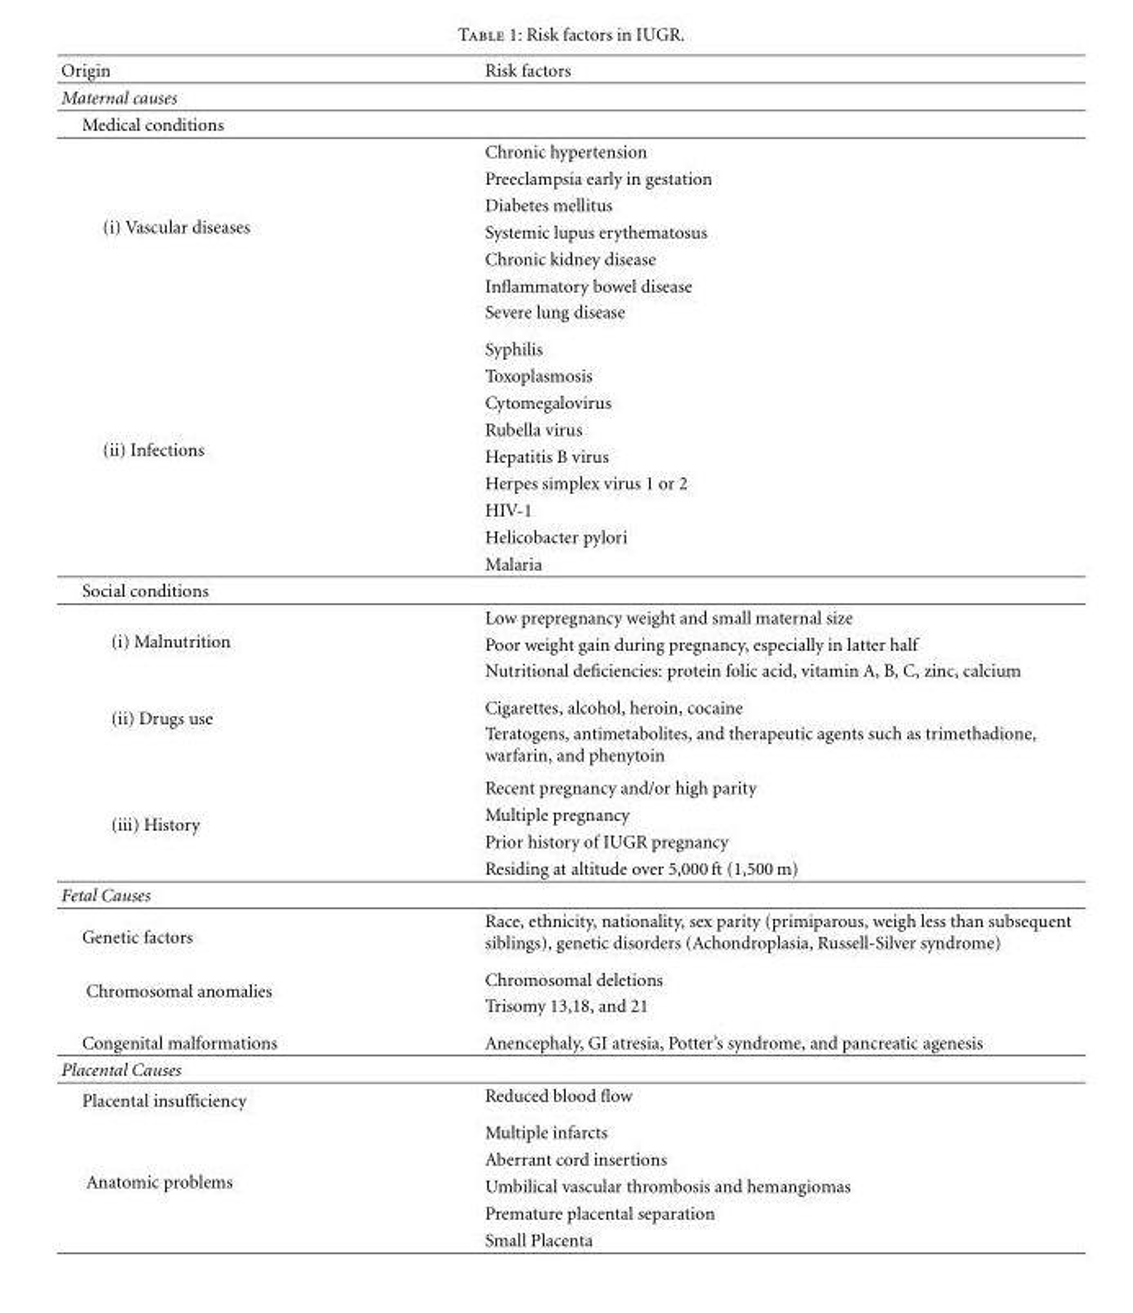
<table><thead><tr><td>Origin</td><td>Risk factors</td></tr></thead><tbody><tr><td colspan="2">Maternal causes</td></tr><tr><td colspan="2">Medical conditions</td></tr><tr><td rowspan="7">(i) Vascular diseases</td><td>Chronic hypertension</td></tr><tr><td>Preeclampsia early in gestation</td></tr><tr><td>Diabetes mellitus</td></tr><tr><td>Systemic lupus erythematosus</td></tr><tr><td>Chronic kidney disease</td></tr><tr><td>Inflammatory bowel disease</td></tr><tr><td>Severe lung disease</td></tr><tr><td rowspan="9">(ii) Infections</td><td>Syphilis</td></tr><tr><td>Toxoplasmosis</td></tr><tr><td>Cytomegalovirus</td></tr><tr><td>Rubella virus</td></tr><tr><td>Hepatitis B virus</td></tr><tr><td>Herpes simplex virus 1 or 2</td></tr><tr><td>HIV-1</td></tr><tr><td>Helicobacter pylori</td></tr><tr><td>Malaria</td></tr><tr><td colspan="2">Social conditions</td></tr><tr><td rowspan="3">(i) Malnutrition</td><td>Low prepregnancy weight and small maternal size</td></tr><tr><td>Poor weight gain during pregnancy, especially in latter half</td></tr><tr><td>Nutritional deficiencies: protein folic acid, vitamin A, B, C, zinc, calcium</td></tr><tr><td rowspan="2">(ii) Drugs use</td><td>Cigarettes, alcohol, heroin, cocaine</td></tr><tr><td>Teratogens, antimetabolites, and therapeutic agents such as trimethadione, warfarin, and phenytoin</td></tr><tr><td rowspan="4">(iii) History</td><td>Recent pregnancy and/or high parity</td></tr><tr><td>Multiple pregnancy</td></tr><tr><td>Prior history of IUGR pregnancy</td></tr><tr><td>Residing at altitude over 5,000 ft (1,500 m)</td></tr><tr><td colspan="2">Fetal Causes</td></tr><tr><td>Genetic factors</td><td>Race, ethnicity, nationality, sex parity (primiparous, weigh less than subsequent siblings), genetic disorders (Achondroplasia, Russell-Silver syndrome)</td></tr><tr><td rowspan="2">Chromosomal anomalies</td><td>Chromosomal deletions</td></tr><tr><td>Trisomy 13,18, and 21</td></tr><tr><td>Congenital malformations</td><td>Anencephaly, GI atresia, Potter’s syndrome, and pancreatic agenesis</td></tr><tr><td colspan="2">Placental Causes</td></tr><tr><td>Placental insufficiency</td><td>Reduced blood flow</td></tr><tr><td rowspan="5">Anatomic problems</td><td>Multiple infarcts</td></tr><tr><td>Aberrant cord insertions</td></tr><tr><td>Umbilical vascular thrombosis and hemangiomas</td></tr><tr><td>Premature placental separation</td></tr><tr><td>Small Placenta</td></tr></tbody></table>